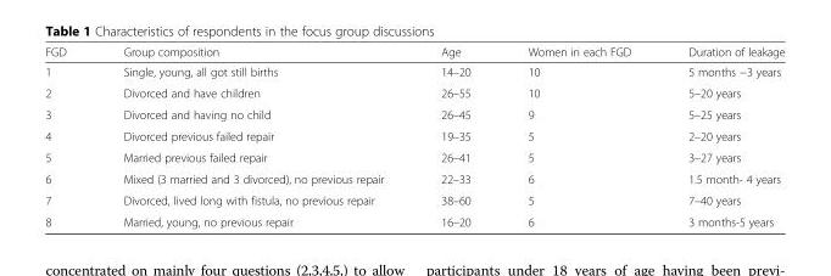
<table><thead><tr><td>FGD</td><td>Group composition</td><td>Age</td><td>Women in each FGD</td><td>Duration of leakage</td></tr></thead><tbody><tr><td>1</td><td>Single, young, all got still births</td><td>14–20</td><td>10</td><td>5 months −3 years</td></tr><tr><td>2</td><td>Divorced and have children</td><td>26–55</td><td>10</td><td>5–20 years</td></tr><tr><td>3</td><td>Divorced and having no child</td><td>26–45</td><td>9</td><td>5–25 years</td></tr><tr><td>4</td><td>Divorced previous failed repair</td><td>19–35</td><td>5</td><td>2–20 years</td></tr><tr><td>5</td><td>Married previous failed repair</td><td>26–41</td><td>5</td><td>3–27 years</td></tr><tr><td>6</td><td>Mixed (3 married and 3 divorced), no previous repair</td><td>22–33</td><td>6</td><td>1.5 month- 4 years</td></tr><tr><td>7</td><td>Divorced, lived long with fistula, no previous repair</td><td>38–60</td><td>5</td><td>7–40 years</td></tr><tr><td>8</td><td>Married, young, no previous repair</td><td>16–20</td><td>6</td><td>3 months-5 years</td></tr></tbody></table>